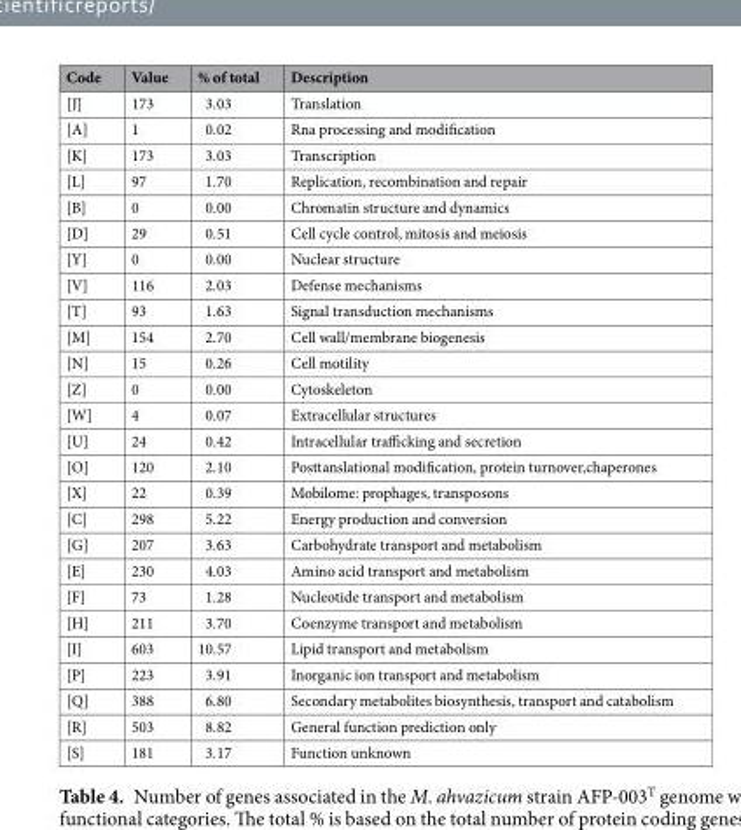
<table><thead><tr><td>Code</td><td>Value</td><td>% of total</td><td>Description</td></tr></thead><tbody><tr><td>[J]</td><td>173</td><td>3.03</td><td>Translation</td></tr><tr><td>[A]</td><td>1</td><td>0.02</td><td>Rna processing and modification</td></tr><tr><td>[K]</td><td>173</td><td>3.03</td><td>Transcription</td></tr><tr><td>[L]</td><td>97</td><td>1.70</td><td>Replication, recombination and repair</td></tr><tr><td>[B]</td><td>0</td><td>0.00</td><td>Chromatin structure and dynamics</td></tr><tr><td>[D]</td><td>29</td><td>0.51</td><td>Cell cycle control, mitosis and meiosis</td></tr><tr><td>[Y]</td><td>0</td><td>0.00</td><td>Nuclear structure</td></tr><tr><td>[V]</td><td>116</td><td>2.03</td><td>Defense mechanisms</td></tr><tr><td>[T]</td><td>93</td><td>1.63</td><td>Signal transduction mechanisms</td></tr><tr><td>[M]</td><td>154</td><td>2.70</td><td>Cell wall/membrane biogenesis</td></tr><tr><td>[N]</td><td>15</td><td>0.26</td><td>Cell motility</td></tr><tr><td>[Z]</td><td>0</td><td>0.00</td><td>Cytoskeleton</td></tr><tr><td>[W]</td><td>4</td><td>0.07</td><td>Extracellular structures</td></tr><tr><td>[U]</td><td>24</td><td>0.42</td><td>Intracellular trafficking and secretion</td></tr><tr><td>[O]</td><td>120</td><td>2.10</td><td>Posttanslational modification, protein turnover,chaperones</td></tr><tr><td>[X]</td><td>22</td><td>0.39</td><td>Mobilome: prophages, transposons</td></tr><tr><td>[C]</td><td>298</td><td>5.22</td><td>Energy production and conversion</td></tr><tr><td>[G]</td><td>207</td><td>3.63</td><td>Carbohydrate transport and metabolism</td></tr><tr><td>[E]</td><td>230</td><td>4.03</td><td>Amino acid transport and metabolism</td></tr><tr><td>[F]</td><td>73</td><td>1.28</td><td>Nucleotide transport and metabolism</td></tr><tr><td>[H]</td><td>211</td><td>3.70</td><td>Coenzyme transport and metabolism</td></tr><tr><td>[I]</td><td>603</td><td>10.57</td><td>Lipid transport and metabolism</td></tr><tr><td>[P]</td><td>223</td><td>3.91</td><td>Inorganic ion transport and metabolism</td></tr><tr><td>[Q]</td><td>388</td><td>6.80</td><td>Secondary metabolites biosynthesis, transport and catabolism</td></tr><tr><td>[R]</td><td>503</td><td>8.82</td><td>General function prediction only</td></tr><tr><td>[S]</td><td>181</td><td>3.17</td><td>Function unknown</td></tr></tbody></table>